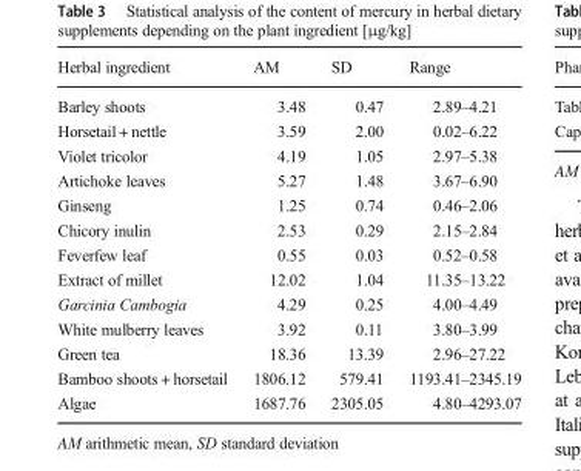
<table><thead><tr><td>Herbal ingredient</td><td>AM</td><td>SD</td><td>Range</td></tr></thead><tbody><tr><td>Barley shoots</td><td>3.48</td><td>0.47</td><td>2.89–4.21</td></tr><tr><td>Horsetail + nettle</td><td>3.59</td><td>2.00</td><td>0.02–6.22</td></tr><tr><td>Violet tricolor</td><td>4.19</td><td>1.05</td><td>2.97–5.38</td></tr><tr><td>Artichoke leaves</td><td>5.27</td><td>1.48</td><td>3.67–6.90</td></tr><tr><td>Ginseng</td><td>1.25</td><td>0.74</td><td>0.46–2.06</td></tr><tr><td>Chicory inulin</td><td>2.53</td><td>0.29</td><td>2.15–2.84</td></tr><tr><td>Feverfew leaf</td><td>0.55</td><td>0.03</td><td>0.52–0.58</td></tr><tr><td>Extract of millet</td><td>12.02</td><td>1.04</td><td>11.35–13.22</td></tr><tr><td>Garcinia Cambogia</td><td>4.29</td><td>0.25</td><td>4.00–4.49</td></tr><tr><td>White mulberry leaves</td><td>3.92</td><td>0.11</td><td>3.80–3.99</td></tr><tr><td>Green tea</td><td>18.36</td><td>13.39</td><td>2.96–27.22</td></tr><tr><td>Bamboo shoots + horsetail</td><td>1806.12</td><td>579.41</td><td>1193.41–2345.19</td></tr><tr><td>Algae</td><td>1687.76</td><td>2305.05</td><td>4.80–4293.07</td></tr></tbody></table>